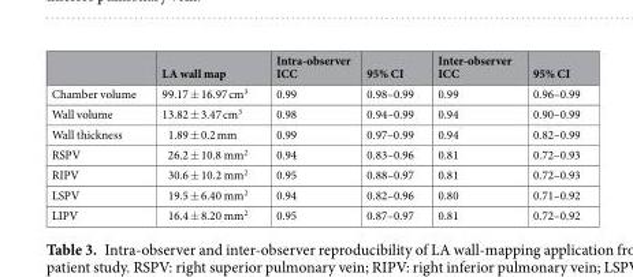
<table><thead><tr><td></td><td>LA wall map</td><td>Intra-observer ICC</td><td>95% CI</td><td>Inter-observer ICC</td><td>95% CI</td></tr></thead><tbody><tr><td>Chamber volume</td><td>99.17 ± 16.97 cm<sup>3</sup></td><td>0.99</td><td>0.98–0.99</td><td>0.99</td><td>0.96–0.99</td></tr><tr><td>Wall volume</td><td>13.82 ± 3.47 cm<sup>3</sup></td><td>0.98</td><td>0.94–0.99</td><td>0.94</td><td>0.90–0.99</td></tr><tr><td>Wall thickness</td><td>1.89 ± 0.2 mm</td><td>0.99</td><td>0.97–0.99</td><td>0.94</td><td>0.82–0.99</td></tr><tr><td>RSPV</td><td>26.2 ± 10.8 mm<sup>2</sup></td><td>0.94</td><td>0.83–0.96</td><td>0.81</td><td>0.72–0.93</td></tr><tr><td>RIPV</td><td>30.6 ± 10.2 mm<sup>2</sup></td><td>0.95</td><td>0.88–0.97</td><td>0.81</td><td>0.72–0.93</td></tr><tr><td>LSPV</td><td>19.5 ± 6.40 mm<sup>2</sup></td><td>0.94</td><td>0.82–0.96</td><td>0.80</td><td>0.71–0.92</td></tr><tr><td>LIPV</td><td>16.4 ± 8.20 mm<sup>2</sup></td><td>0.95</td><td>0.87–0.97</td><td>0.81</td><td>0.72–0.92</td></tr></tbody></table>